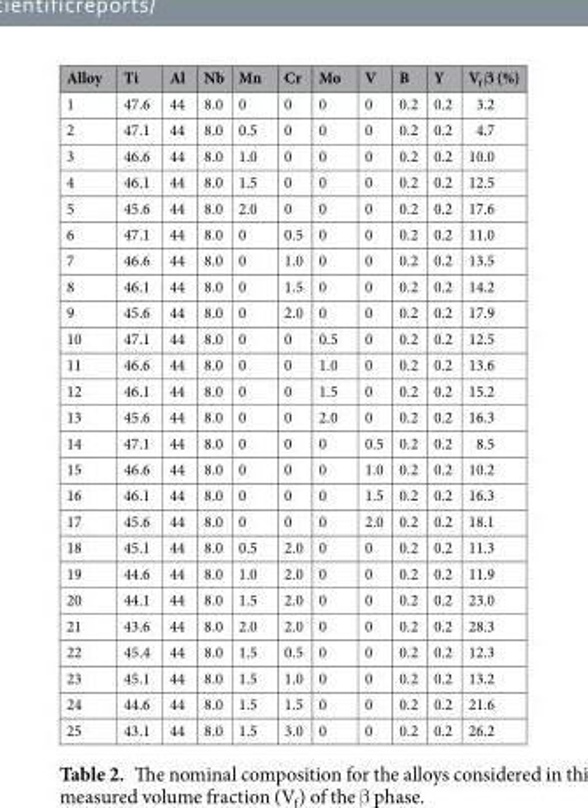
<table><thead><tr><td>Alloy</td><td>Ti</td><td>Al</td><td>Nb</td><td>Mn</td><td>Cr</td><td>Mo</td><td>V</td><td>B</td><td>Y</td><td>V<sub>f</sub> β (%)</td></tr></thead><tbody><tr><td>1</td><td>47.6</td><td>44</td><td>8.0</td><td>0</td><td>0</td><td>0</td><td>0</td><td>0.2</td><td>0.2</td><td>3.2</td></tr><tr><td>2</td><td>47.1</td><td>44</td><td>8.0</td><td>0.5</td><td>0</td><td>0</td><td>0</td><td>0.2</td><td>0.2</td><td>4.7</td></tr><tr><td>3</td><td>46.6</td><td>44</td><td>8.0</td><td>1.0</td><td>0</td><td>0</td><td>0</td><td>0.2</td><td>0.2</td><td>10.0</td></tr><tr><td>4</td><td>46.1</td><td>44</td><td>8.0</td><td>1.5</td><td>0</td><td>0</td><td>0</td><td>0.2</td><td>0.2</td><td>12.5</td></tr><tr><td>5</td><td>45.6</td><td>44</td><td>8.0</td><td>2.0</td><td>0</td><td>0</td><td>0</td><td>0.2</td><td>0.2</td><td>17.6</td></tr><tr><td>6</td><td>47.1</td><td>44</td><td>8.0</td><td>0</td><td>0.5</td><td>0</td><td>0</td><td>0.2</td><td>0.2</td><td>11.0</td></tr><tr><td>7</td><td>46.6</td><td>44</td><td>8.0</td><td>0</td><td>1.0</td><td>0</td><td>0</td><td>0.2</td><td>0.2</td><td>13.5</td></tr><tr><td>8</td><td>46.1</td><td>44</td><td>8.0</td><td>0</td><td>1.5</td><td>0</td><td>0</td><td>0.2</td><td>0.2</td><td>14.2</td></tr><tr><td>9</td><td>45.6</td><td>44</td><td>8.0</td><td>0</td><td>2.0</td><td>0</td><td>0</td><td>0.2</td><td>0.2</td><td>17.9</td></tr><tr><td>10</td><td>47.1</td><td>44</td><td>8.0</td><td>0</td><td>0</td><td>0.5</td><td>0</td><td>0.2</td><td>0.2</td><td>12.5</td></tr><tr><td>11</td><td>46.6</td><td>44</td><td>8.0</td><td>0</td><td>0</td><td>1.0</td><td>0</td><td>0.2</td><td>0.2</td><td>13.6</td></tr><tr><td>12</td><td>46.1</td><td>44</td><td>8.0</td><td>0</td><td>0</td><td>1.5</td><td>0</td><td>0.2</td><td>0.2</td><td>15.2</td></tr><tr><td>13</td><td>45.6</td><td>44</td><td>8.0</td><td>0</td><td>0</td><td>2.0</td><td>0</td><td>0.2</td><td>0.2</td><td>16.3</td></tr><tr><td>14</td><td>47.1</td><td>44</td><td>8.0</td><td>0</td><td>0</td><td>0</td><td>0.5</td><td>0.2</td><td>0.2</td><td>8.5</td></tr><tr><td>15</td><td>46.6</td><td>44</td><td>8.0</td><td>0</td><td>0</td><td>0</td><td>1.0</td><td>0.2</td><td>0.2</td><td>10.2</td></tr><tr><td>16</td><td>46.1</td><td>44</td><td>8.0</td><td>0</td><td>0</td><td>0</td><td>1.5</td><td>0.2</td><td>0.2</td><td>16.3</td></tr><tr><td>17</td><td>45.6</td><td>44</td><td>8.0</td><td>0</td><td>0</td><td>0</td><td>2.0</td><td>0.2</td><td>0.2</td><td>18.1</td></tr><tr><td>18</td><td>45.1</td><td>44</td><td>8.0</td><td>0.5</td><td>2.0</td><td>0</td><td>0</td><td>0.2</td><td>0.2</td><td>11.3</td></tr><tr><td>19</td><td>44.6</td><td>44</td><td>8.0</td><td>1.0</td><td>2.0</td><td>0</td><td>0</td><td>0.2</td><td>0.2</td><td>11.9</td></tr><tr><td>20</td><td>44.1</td><td>44</td><td>8.0</td><td>1.5</td><td>2.0</td><td>0</td><td>0</td><td>0.2</td><td>0.2</td><td>23.0</td></tr><tr><td>21</td><td>43.6</td><td>44</td><td>8.0</td><td>2.0</td><td>2.0</td><td>0</td><td>0</td><td>0.2</td><td>0.2</td><td>28.3</td></tr><tr><td>22</td><td>45.4</td><td>44</td><td>8.0</td><td>1.5</td><td>0.5</td><td>0</td><td>0</td><td>0.2</td><td>0.2</td><td>12.3</td></tr><tr><td>23</td><td>45.1</td><td>44</td><td>8.0</td><td>1.5</td><td>1.0</td><td>0</td><td>0</td><td>0.2</td><td>0.2</td><td>13.2</td></tr><tr><td>24</td><td>44.6</td><td>44</td><td>8.0</td><td>1.5</td><td>1.5</td><td>0</td><td>0</td><td>0.2</td><td>0.2</td><td>21.6</td></tr><tr><td>25</td><td>43.1</td><td>44</td><td>8.0</td><td>1.5</td><td>3.0</td><td>0</td><td>0</td><td>0.2</td><td>0.2</td><td>26.2</td></tr></tbody></table>